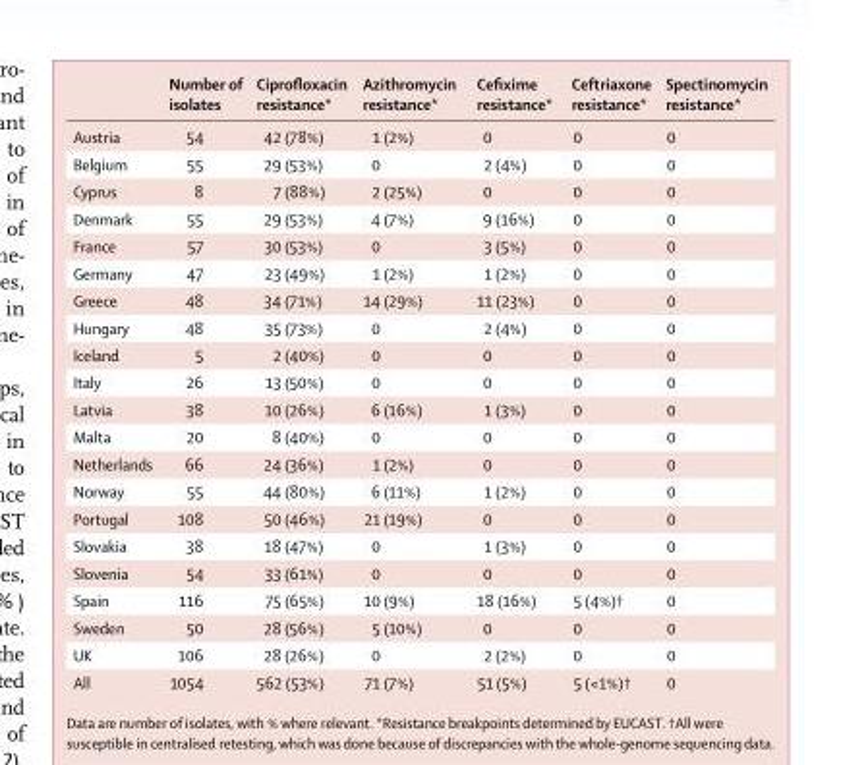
<table><thead><tr><td></td><td>Number of isolates</td><td>Ciprofloxacin resistance*</td><td>Azithromycin resistance*</td><td>Cefixime resistance*</td><td>Ceftriaxone resistance*</td><td>Spectinomycin resistance*</td></tr></thead><tbody><tr><td>Austria</td><td>54</td><td>42 (78%)</td><td>1 (2%)</td><td>0</td><td>0</td><td>0</td></tr><tr><td>Belgium</td><td>55</td><td>29 (53%)</td><td>0</td><td>2 (4%)</td><td>0</td><td>0</td></tr><tr><td>Cyprus</td><td>8</td><td>7 (88%)</td><td>2 (25%)</td><td>0</td><td>0</td><td>0</td></tr><tr><td>Denmark</td><td>55</td><td>29 (53%)</td><td>4 (7%)</td><td>9 (16%)</td><td>0</td><td>0</td></tr><tr><td>France</td><td>57</td><td>30 (53%)</td><td>0</td><td>3 (5%)</td><td>0</td><td>0</td></tr><tr><td>Germany</td><td>47</td><td>23 (49%)</td><td>1 (2%)</td><td>1 (2%)</td><td>0</td><td>0</td></tr><tr><td>Greece</td><td>48</td><td>34 (71%)</td><td>14 (29%)</td><td>11 (23%)</td><td>0</td><td>0</td></tr><tr><td>Hungary</td><td>48</td><td>35 (73%)</td><td>0</td><td>2 (4%)</td><td>0</td><td>0</td></tr><tr><td>Iceland</td><td>5</td><td>2 (40%)</td><td>0</td><td>0</td><td>0</td><td>0</td></tr><tr><td>Italy</td><td>26</td><td>13 (50%)</td><td>0</td><td>0</td><td>0</td><td>0</td></tr><tr><td>Latvia</td><td>38</td><td>10 (26%)</td><td>6 (16%)</td><td>1 (3%)</td><td>0</td><td>0</td></tr><tr><td>Malta</td><td>20</td><td>8 (40%)</td><td>0</td><td>0</td><td>0</td><td>0</td></tr><tr><td>Netherlands</td><td>66</td><td>24 (36%)</td><td>1 (2%)</td><td>0</td><td>0</td><td>0</td></tr><tr><td>Norway</td><td>55</td><td>44 (80%)</td><td>6 (11%)</td><td>1 (2%)</td><td>0</td><td>0</td></tr><tr><td>Portugal</td><td>108</td><td>50 (46%)</td><td>21 (19%)</td><td>0</td><td>0</td><td>0</td></tr><tr><td>Slovakia</td><td>38</td><td>18 (47%)</td><td>0</td><td>1 (3%)</td><td>0</td><td>0</td></tr><tr><td>Slovenia</td><td>54</td><td>33 (61%)</td><td>0</td><td>0</td><td>0</td><td>0</td></tr><tr><td>Spain</td><td>116</td><td>75 (65%)</td><td>10 (9%)</td><td>18 (16%)</td><td>5 (4%)†</td><td>0</td></tr><tr><td>Sweden</td><td>50</td><td>28 (56%)</td><td>5 (10%)</td><td>0</td><td>0</td><td>0</td></tr><tr><td>UK</td><td>106</td><td>28 (26%)</td><td>0</td><td>2 (2%)</td><td>0</td><td>0</td></tr><tr><td>All</td><td>1054</td><td>562 (53%)</td><td>71 (7%)</td><td>51 (5%)</td><td>5 (&lt;1%)†</td><td>0</td></tr></tbody></table>